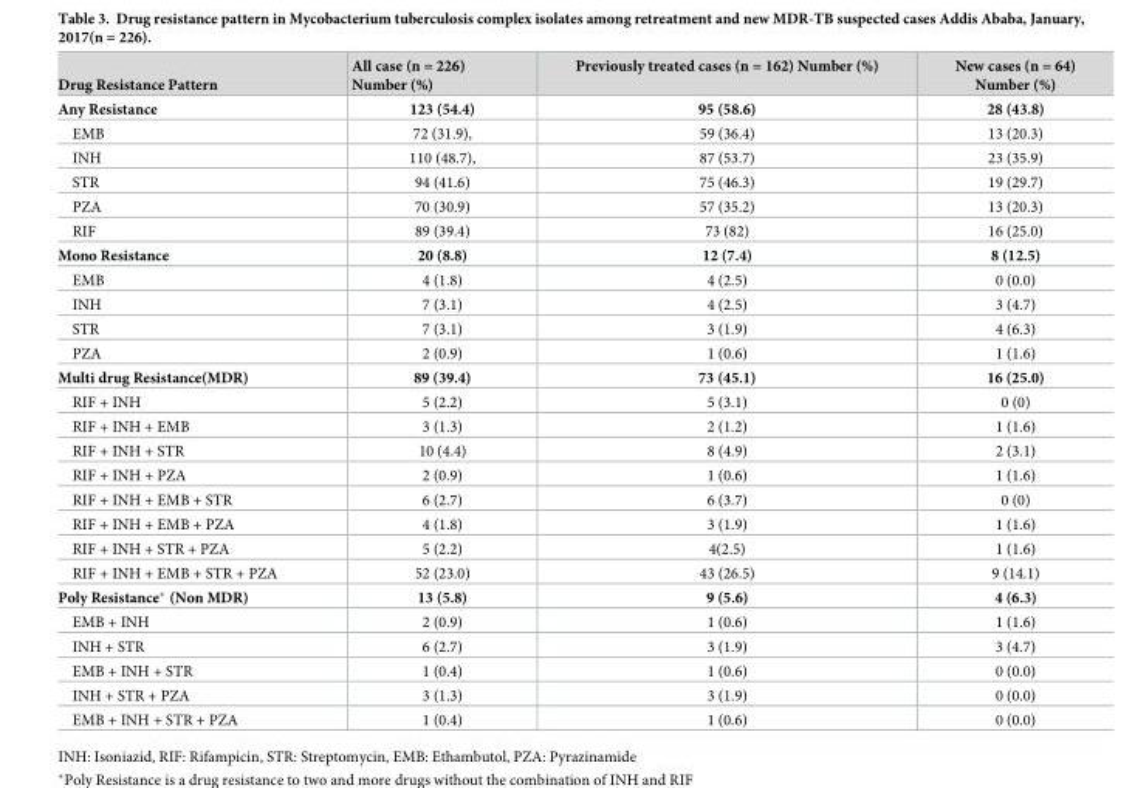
<table><thead><tr><td>Drug Resistance Pattern</td><td>All case (n = 226) Number (%)</td><td>Previously treated cases (n = 162) Number (%)</td><td>New cases (n = 64) Number (%)</td></tr></thead><tbody><tr><td>Any Resistance</td><td>123 (54.4)</td><td>95 (58.6)</td><td>28 (43.8)</td></tr><tr><td>EMB</td><td>72 (31.9),</td><td>59 (36.4)</td><td>13 (20.3)</td></tr><tr><td>INH</td><td>110 (48.7),</td><td>87 (53.7)</td><td>23 (35.9)</td></tr><tr><td>STR</td><td>94 (41.6)</td><td>75 (46.3)</td><td>19 (29.7)</td></tr><tr><td>PZA</td><td>70 (30.9)</td><td>57 (35.2)</td><td>13 (20.3)</td></tr><tr><td>RIF</td><td>89 (39.4)</td><td>73 (82)</td><td>16 (25.0)</td></tr><tr><td>Mono Resistance</td><td>20 (8.8)</td><td>12 (7.4)</td><td>8 (12.5)</td></tr><tr><td>EMB</td><td>4 (1.8)</td><td>4 (2.5)</td><td>0 (0.0)</td></tr><tr><td>INH</td><td>7 (3.1)</td><td>4 (2.5)</td><td>3 (4.7)</td></tr><tr><td>STR</td><td>7 (3.1)</td><td>3 (1.9)</td><td>4 (6.3)</td></tr><tr><td>PZA</td><td>2 (0.9)</td><td>1 (0.6)</td><td>1 (1.6)</td></tr><tr><td>Multi drug Resistance(MDR)</td><td>89 (39.4)</td><td>73 (45.1)</td><td>16 (25.0)</td></tr><tr><td>RIF + INH</td><td>5 (2.2)</td><td>5 (3.1)</td><td>0 (0)</td></tr><tr><td>RIF + INH + EMB</td><td>3 (1.3)</td><td>2 (1.2)</td><td>1 (1.6)</td></tr><tr><td>RIF + INH + STR</td><td>10 (4.4)</td><td>8 (4.9)</td><td>2 (3.1)</td></tr><tr><td>RIF + INH + PZA</td><td>2 (0.9)</td><td>1 (0.6)</td><td>1 (1.6)</td></tr><tr><td>RIF + INH + EMB + STR</td><td>6 (2.7)</td><td>6 (3.7)</td><td>0 (0)</td></tr><tr><td>RIF + INH + EMB + PZA</td><td>4 (1.8)</td><td>3 (1.9)</td><td>1 (1.6)</td></tr><tr><td>RIF + INH + STR + PZA</td><td>5 (2.2)</td><td>4(2.5)</td><td>1 (1.6)</td></tr><tr><td>RIF + INH + EMB + STR + PZA</td><td>52 (23.0)</td><td>43 (26.5)</td><td>9 (14.1)</td></tr><tr><td>Poly Resistance* (Non MDR)</td><td>13 (5.8)</td><td>9 (5.6)</td><td>4 (6.3)</td></tr><tr><td>EMB + INH</td><td>2 (0.9)</td><td>1 (0.6)</td><td>1 (1.6)</td></tr><tr><td>INH + STR</td><td>6 (2.7)</td><td>3 (1.9)</td><td>3 (4.7)</td></tr><tr><td>EMB + INH + STR</td><td>1 (0.4)</td><td>1 (0.6)</td><td>0 (0.0)</td></tr><tr><td>INH + STR + PZA</td><td>3 (1.3)</td><td>3 (1.9)</td><td>0 (0.0)</td></tr><tr><td>EMB + INH + STR + PZA</td><td>1 (0.4)</td><td>1 (0.6)</td><td>0 (0.0)</td></tr></tbody></table>